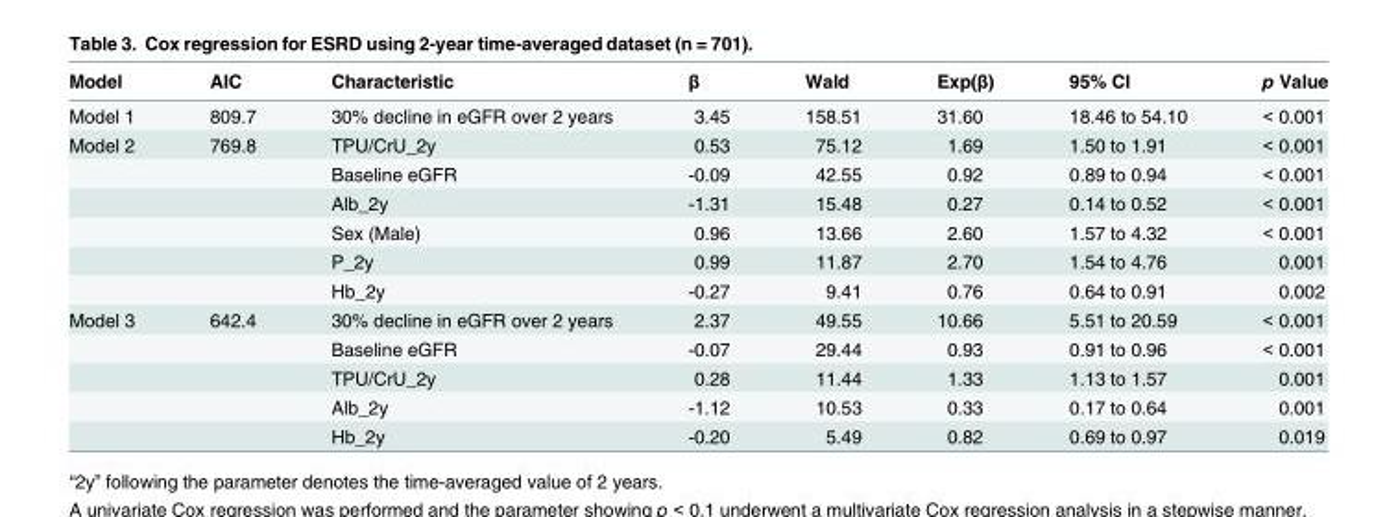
<table><thead><tr><td>Model</td><td>AIC</td><td>Characteristic</td><td>β</td><td>Wald</td><td>Exp(β)</td><td>95% CI</td><td>p Value</td></tr></thead><tbody><tr><td>Model 1</td><td>809.7</td><td>30% decline in eGFR over 2 years</td><td>3.45</td><td>158.51</td><td>31.60</td><td>18.46 to 54.10</td><td>&lt; 0.001</td></tr><tr><td rowspan="6">Model 2</td><td>769.8</td><td>TPU/CrU_2y</td><td>0.53</td><td>75.12</td><td>1.69</td><td>1.50 to 1.91</td><td>&lt; 0.001</td></tr><tr><td></td><td>Baseline eGFR</td><td>-0.09</td><td>42.55</td><td>0.92</td><td>0.89 to 0.94</td><td>&lt; 0.001</td></tr><tr><td></td><td>Alb_2y</td><td>-1.31</td><td>15.48</td><td>0.27</td><td>0.14 to 0.52</td><td>&lt; 0.001</td></tr><tr><td></td><td>Sex (Male)</td><td>0.96</td><td>13.66</td><td>2.60</td><td>1.57 to 4.32</td><td>&lt; 0.001</td></tr><tr><td></td><td>P_2y</td><td>0.99</td><td>11.87</td><td>2.70</td><td>1.54 to 4.76</td><td>0.001</td></tr><tr><td></td><td>Hb_2y</td><td>-0.27</td><td>9.41</td><td>0.76</td><td>0.64 to 0.91</td><td>0.002</td></tr><tr><td rowspan="5">Model 3</td><td>642.4</td><td>30% decline in eGFR over 2 years</td><td>2.37</td><td>49.55</td><td>10.66</td><td>5.51 to 20.59</td><td>&lt; 0.001</td></tr><tr><td></td><td>Baseline eGFR</td><td>-0.07</td><td>29.44</td><td>0.93</td><td>0.91 to 0.96</td><td>&lt; 0.001</td></tr><tr><td></td><td>TPU/CrU_2y</td><td>0.28</td><td>11.44</td><td>1.33</td><td>1.13 to 1.57</td><td>0.001</td></tr><tr><td></td><td>Alb_2y</td><td>-1.12</td><td>10.53</td><td>0.33</td><td>0.17 to 0.64</td><td>0.001</td></tr><tr><td></td><td>Hb_2y</td><td>-0.20</td><td>5.49</td><td>0.82</td><td>0.69 to 0.97</td><td>0.019</td></tr></tbody></table>